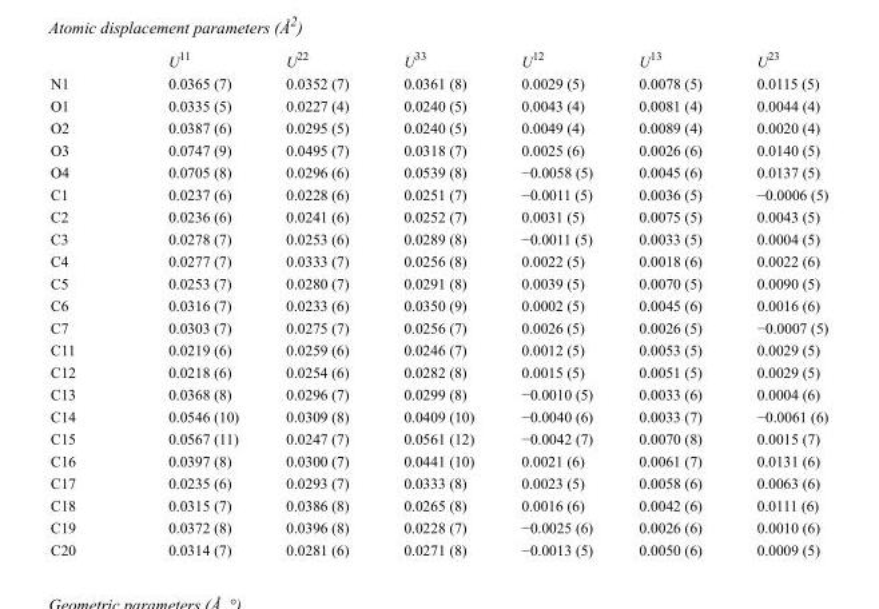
<table><thead><tr><td></td><td>U<sup>11</sup></td><td>U<sup>22</sup></td><td>U<sup>33</sup></td><td>U<sup>12</sup></td><td>U<sup>13</sup></td><td>U<sup>23</sup></td></tr></thead><tbody><tr><td>N1</td><td>0.0365 (7)</td><td>0.0352 (7)</td><td>0.0361 (8)</td><td>0.0029 (5)</td><td>0.0078 (5)</td><td>0.0115 (5)</td></tr><tr><td>O1</td><td>0.0335 (5)</td><td>0.0227 (4)</td><td>0.0240 (5)</td><td>0.0043 (4)</td><td>0.0081 (4)</td><td>0.0044 (4)</td></tr><tr><td>O2</td><td>0.0387 (6)</td><td>0.0295 (5)</td><td>0.0240 (5)</td><td>0.0049 (4)</td><td>0.0089 (4)</td><td>0.0020 (4)</td></tr><tr><td>O3</td><td>0.0747 (9)</td><td>0.0495 (7)</td><td>0.0318 (7)</td><td>0.0025 (6)</td><td>0.0026 (6)</td><td>0.0140 (5)</td></tr><tr><td>O4</td><td>0.0705 (8)</td><td>0.0296 (6)</td><td>0.0539 (8)</td><td>−0.0058 (5)</td><td>0.0045 (6)</td><td>0.0137 (5)</td></tr><tr><td>C1</td><td>0.0237 (6)</td><td>0.0228 (6)</td><td>0.0251 (7)</td><td>−0.0011 (5)</td><td>0.0036 (5)</td><td>−0.0006 (5)</td></tr><tr><td>C2</td><td>0.0236 (6)</td><td>0.0241 (6)</td><td>0.0252 (7)</td><td>0.0031 (5)</td><td>0.0075 (5)</td><td>0.0043 (5)</td></tr><tr><td>C3</td><td>0.0278 (7)</td><td>0.0253 (6)</td><td>0.0289 (8)</td><td>−0.0011 (5)</td><td>0.0033 (5)</td><td>0.0004 (5)</td></tr><tr><td>C4</td><td>0.0277 (7)</td><td>0.0333 (7)</td><td>0.0256 (8)</td><td>0.0022 (5)</td><td>0.0018 (6)</td><td>0.0022 (6)</td></tr><tr><td>C5</td><td>0.0253 (7)</td><td>0.0280 (7)</td><td>0.0291 (8)</td><td>0.0039 (5)</td><td>0.0070 (5)</td><td>0.0090 (5)</td></tr><tr><td>C6</td><td>0.0316 (7)</td><td>0.0233 (6)</td><td>0.0350 (9)</td><td>0.0002 (5)</td><td>0.0045 (6)</td><td>0.0016 (6)</td></tr><tr><td>C7</td><td>0.0303 (7)</td><td>0.0275 (7)</td><td>0.0256 (7)</td><td>0.0026 (5)</td><td>0.0026 (5)</td><td>−0.0007 (5)</td></tr><tr><td>C11</td><td>0.0219 (6)</td><td>0.0259 (6)</td><td>0.0246 (7)</td><td>0.0012 (5)</td><td>0.0053 (5)</td><td>0.0029 (5)</td></tr><tr><td>C12</td><td>0.0218 (6)</td><td>0.0254 (6)</td><td>0.0282 (8)</td><td>0.0015 (5)</td><td>0.0051 (5)</td><td>0.0029 (5)</td></tr><tr><td>C13</td><td>0.0368 (8)</td><td>0.0296 (7)</td><td>0.0299 (8)</td><td>−0.0010 (5)</td><td>0.0033 (6)</td><td>0.0004 (6)</td></tr><tr><td>C14</td><td>0.0546 (10)</td><td>0.0309 (8)</td><td>0.0409 (10)</td><td>−0.0040 (6)</td><td>0.0033 (7)</td><td>−0.0061 (6)</td></tr><tr><td>C15</td><td>0.0567 (11)</td><td>0.0247 (7)</td><td>0.0561 (12)</td><td>−0.0042 (7)</td><td>0.0070 (8)</td><td>0.0015 (7)</td></tr><tr><td>C16</td><td>0.0397 (8)</td><td>0.0300 (7)</td><td>0.0441 (10)</td><td>0.0021 (6)</td><td>0.0061 (7)</td><td>0.0131 (6)</td></tr><tr><td>C17</td><td>0.0235 (6)</td><td>0.0293 (7)</td><td>0.0333 (8)</td><td>0.0023 (5)</td><td>0.0058 (6)</td><td>0.0063 (6)</td></tr><tr><td>C18</td><td>0.0315 (7)</td><td>0.0386 (8)</td><td>0.0265 (8)</td><td>0.0016 (6)</td><td>0.0042 (6)</td><td>0.0111 (6)</td></tr><tr><td>C19</td><td>0.0372 (8)</td><td>0.0396 (8)</td><td>0.0228 (7)</td><td>−0.0025 (6)</td><td>0.0026 (6)</td><td>0.0010 (6)</td></tr><tr><td>C20</td><td>0.0314 (7)</td><td>0.0281 (6)</td><td>0.0271 (8)</td><td>−0.0013 (5)</td><td>0.0050 (6)</td><td>0.0009 (5)</td></tr></tbody></table>